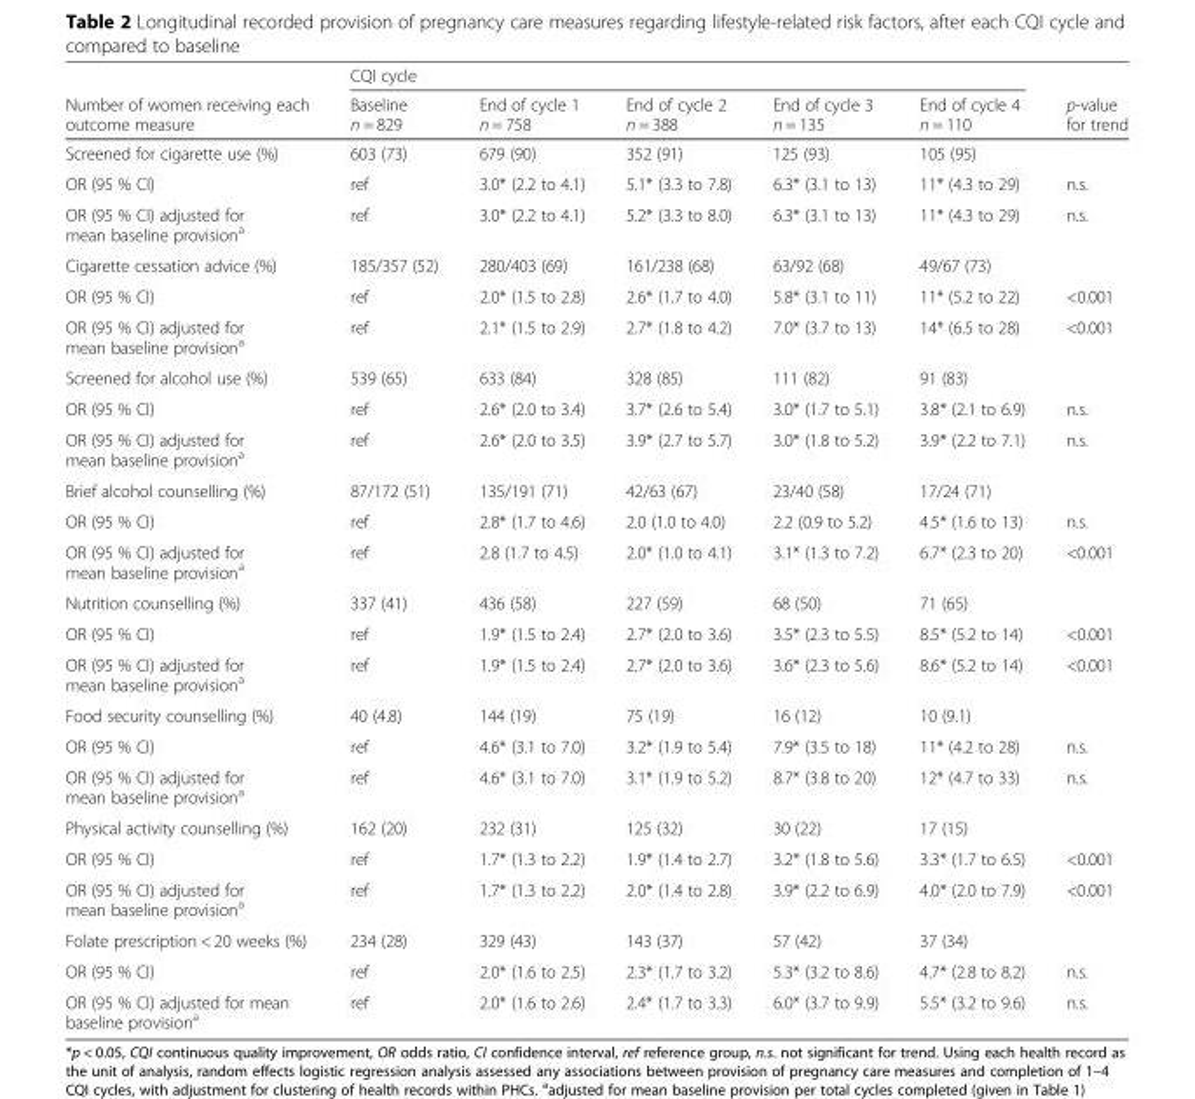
<table><thead><tr><td rowspan="2">Number of women receiving each outcome measure</td><td colspan="5">CQI cycle</td><td rowspan="2">p-value for trend</td></tr><tr><td>Baseline n = 829</td><td>End of cycle 1 n = 758</td><td>End of cycle 2 n = 388</td><td>End of cycle 3 n = 135</td><td>End of cycle 4 n = 110</td></tr></thead><tbody><tr><td>Screened for cigarette use (%)</td><td>603 (73)</td><td>679 (90)</td><td>352 (91)</td><td>125 (93)</td><td>105 (95)</td><td></td></tr><tr><td>OR (95 % CI)</td><td>ref</td><td>3.0* (2.2 to 4.1)</td><td>5.1* (3.3 to 7.8)</td><td>6.3* (3.1 to 13)</td><td>11* (4.3 to 29)</td><td>n.s.</td></tr><tr><td>OR (95 % CI) adjusted for mean baseline provision<sup>a</sup></td><td>ref</td><td>3.0* (2.2 to 4.1)</td><td>5.2* (3.3 to 8.0)</td><td>6.3* (3.1 to 13)</td><td>11* (4.3 to 29)</td><td>n.s.</td></tr><tr><td>Cigarette cessation advice (%)</td><td>185/357 (52)</td><td>280/403 (69)</td><td>161/238 (68)</td><td>63/92 (68)</td><td>49/67 (73)</td><td></td></tr><tr><td>OR (95 % CI)</td><td>ref</td><td>2.0* (1.5 to 2.8)</td><td>2.6* (1.7 to 4.0)</td><td>5.8* (3.1 to 11)</td><td>11* (5.2 to 22)</td><td>&lt;0.001</td></tr><tr><td>OR (95 % CI) adjusted for mean baseline provision<sup>a</sup></td><td>ref</td><td>2.1* (1.5 to 2.9)</td><td>2.7* (1.8 to 4.2)</td><td>7.0* (3.7 to 13)</td><td>14* (6.5 to 28)</td><td>&lt;0.001</td></tr><tr><td>Screened for alcohol use (%)</td><td>539 (65)</td><td>633 (84)</td><td>328 (85)</td><td>111 (82)</td><td>91 (83)</td><td></td></tr><tr><td>OR (95 % CI)</td><td>ref</td><td>2.6* (2.0 to 3.4)</td><td>3.7* (2.6 to 5.4)</td><td>3.0* (1.7 to 5.1)</td><td>3.8* (2.1 to 6.9)</td><td>n.s.</td></tr><tr><td>OR (95 % CI) adjusted for mean baseline provision<sup>a</sup></td><td>ref</td><td>2.6* (2.0 to 3.5)</td><td>3.9* (2.7 to 5.7)</td><td>3.0* (1.8 to 5.2)</td><td>3.9* (2.2 to 7.1)</td><td>n.s.</td></tr><tr><td>Brief alcohol counselling (%)</td><td>87/172 (51)</td><td>135/191 (71)</td><td>42/63 (67)</td><td>23/40 (58)</td><td>17/24 (71)</td><td></td></tr><tr><td>OR (95 % CI)</td><td>ref</td><td>2.8* (1.7 to 4.6)</td><td>2.0 (1.0 to 4.0)</td><td>2.2 (0.9 to 5.2)</td><td>4.5* (1.6 to 13)</td><td>n.s.</td></tr><tr><td>OR (95 % CI) adjusted for mean baseline provision<sup>a</sup></td><td>ref</td><td>2.8 (1.7 to 4.5)</td><td>2.0* (1.0 to 4.1)</td><td>3.1* (1.3 to 7.2)</td><td>6.7* (2.3 to 20)</td><td>&lt;0.001</td></tr><tr><td>Nutrition counselling (%)</td><td>337 (41)</td><td>436 (58)</td><td>227 (59)</td><td>68 (50)</td><td>71 (65)</td><td></td></tr><tr><td>OR (95 % CI)</td><td>ref</td><td>1.9* (1.5 to 2.4)</td><td>2.7* (2.0 to 3.6)</td><td>3.5* (2.3 to 5.5)</td><td>8.5* (5.2 to 14)</td><td>&lt;0.001</td></tr><tr><td>OR (95 % CI) adjusted for mean baseline provision<sup>a</sup></td><td>ref</td><td>1.9* (1.5 to 2.4)</td><td>2.7* (2.0 to 3.6)</td><td>3.6* (2.3 to 5.6)</td><td>8.6* (5.2 to 14)</td><td>&lt;0.001</td></tr><tr><td>Food security counselling (%)</td><td>40 (4.8)</td><td>144 (19)</td><td>75 (19)</td><td>16 (12)</td><td>10 (9.1)</td><td></td></tr><tr><td>OR (95 % CI)</td><td>ref</td><td>4.6* (3.1 to 7.0)</td><td>3.2* (1.9 to 5.4)</td><td>7.9* (3.5 to 18)</td><td>11* (4.2 to 28)</td><td>n.s.</td></tr><tr><td>OR (95 % CI) adjusted for mean baseline provision<sup>a</sup></td><td>ref</td><td>4.6* (3.1 to 7.0)</td><td>3.1* (1.9 to 5.2)</td><td>8.7* (3.8 to 20)</td><td>12* (4.7 to 33)</td><td>n.s.</td></tr><tr><td>Physical activity counselling (%)</td><td>162 (20)</td><td>232 (31)</td><td>125 (32)</td><td>30 (22)</td><td>17 (15)</td><td></td></tr><tr><td>OR (95 % CI)</td><td>ref</td><td>1.7* (1.3 to 2.2)</td><td>1.9* (1.4 to 2.7)</td><td>3.2* (1.8 to 5.6)</td><td>3.3* (1.7 to 6.5)</td><td>&lt;0.001</td></tr><tr><td>OR (95 % CI) adjusted for mean baseline provision<sup>a</sup></td><td>ref</td><td>1.7* (1.3 to 2.2)</td><td>2.0* (1.4 to 2.8)</td><td>3.9* (2.2 to 6.9)</td><td>4.0* (2.0 to 7.9)</td><td>&lt;0.001</td></tr><tr><td>Folate prescription &lt; 20 weeks (%)</td><td>234 (28)</td><td>329 (43)</td><td>143 (37)</td><td>57 (42)</td><td>37 (34)</td><td></td></tr><tr><td>OR (95 % CI)</td><td>ref</td><td>2.0* (1.6 to 2.5)</td><td>2.3* (1.7 to 3.2)</td><td>5.3* (3.2 to 8.6)</td><td>4.7* (2.8 to 8.2)</td><td>n.s.</td></tr><tr><td>OR (95 % CI) adjusted for mean baseline provision<sup>a</sup></td><td>ref</td><td>2.0* (1.6 to 2.6)</td><td>2.4* (1.7 to 3.3)</td><td>6.0* (3.7 to 9.9)</td><td>5.5* (3.2 to 9.6)</td><td>n.s.</td></tr></tbody></table>